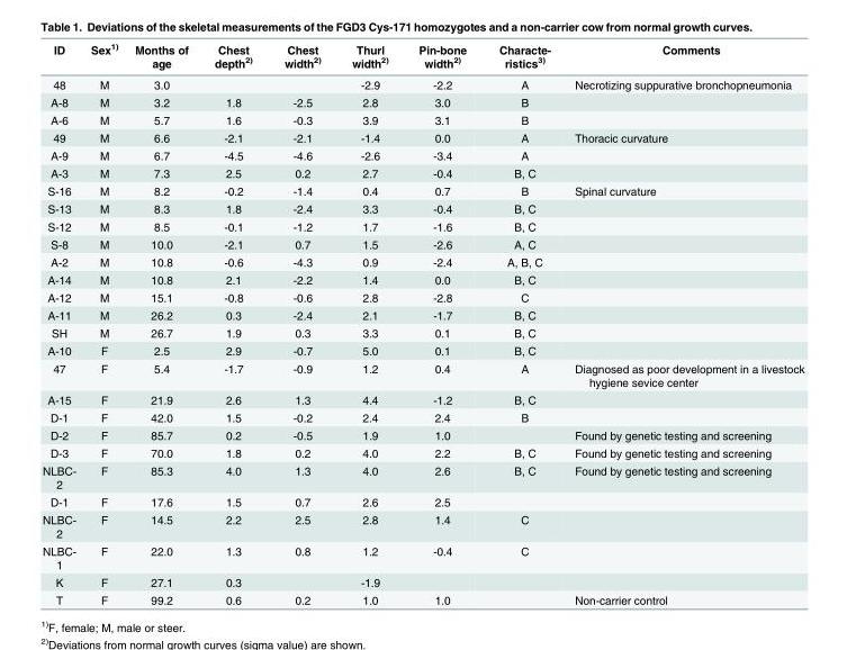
<table><thead><tr><td>ID</td><td>Sex<sup>1)</sup></td><td>Months of age</td><td>Chest depth<sup>2)</sup></td><td>Chest width<sup>2)</sup></td><td>Thurl width<sup>2)</sup></td><td>Pin-bone width<sup>2)</sup></td><td>Characte- ristics<sup>3)</sup></td><td>Comments</td></tr></thead><tbody><tr><td>48</td><td>M</td><td>3.0</td><td></td><td></td><td>-2.9</td><td>-2.2</td><td>A</td><td>Necrotizing suppurative bronchopneumonia</td></tr><tr><td>A-8</td><td>M</td><td>3.2</td><td>1.8</td><td>-2.5</td><td>2.8</td><td>3.0</td><td>B</td><td></td></tr><tr><td>A-6</td><td>M</td><td>5.7</td><td>1.6</td><td>-0.3</td><td>3.9</td><td>3.1</td><td>B</td><td></td></tr><tr><td>49</td><td>M</td><td>6.6</td><td>-2.1</td><td>-2.1</td><td>-1.4</td><td>0.0</td><td>A</td><td>Thoracic curvature</td></tr><tr><td>A-9</td><td>M</td><td>6.7</td><td>-4.5</td><td>-4.6</td><td>-2.6</td><td>-3.4</td><td>A</td><td></td></tr><tr><td>A-3</td><td>M</td><td>7.3</td><td>2.5</td><td>0.2</td><td>2.7</td><td>-0.4</td><td>B, C</td><td></td></tr><tr><td>S-16</td><td>M</td><td>8.2</td><td>-0.2</td><td>-1.4</td><td>0.4</td><td>0.7</td><td>B</td><td>Spinal curvature</td></tr><tr><td>S-13</td><td>M</td><td>8.3</td><td>1.8</td><td>-2.4</td><td>3.3</td><td>-0.4</td><td>B, C</td><td></td></tr><tr><td>S-12</td><td>M</td><td>8.5</td><td>-0.1</td><td>-1.2</td><td>1.7</td><td>-1.6</td><td>B, C</td><td></td></tr><tr><td>S-8</td><td>M</td><td>10.0</td><td>-2.1</td><td>0.7</td><td>1.5</td><td>-2.6</td><td>A, C</td><td></td></tr><tr><td>A-2</td><td>M</td><td>10.8</td><td>-0.6</td><td>-4.3</td><td>0.9</td><td>-2.4</td><td>A, B, C</td><td></td></tr><tr><td>A-14</td><td>M</td><td>10.8</td><td>2.1</td><td>-2.2</td><td>1.4</td><td>0.0</td><td>B, C</td><td></td></tr><tr><td>A-12</td><td>M</td><td>15.1</td><td>-0.8</td><td>-0.6</td><td>2.8</td><td>-2.8</td><td>C</td><td></td></tr><tr><td>A-11</td><td>M</td><td>26.2</td><td>0.3</td><td>-2.4</td><td>2.1</td><td>-1.7</td><td>B, C</td><td></td></tr><tr><td>SH</td><td>M</td><td>26.7</td><td>1.9</td><td>0.3</td><td>3.3</td><td>0.1</td><td>B, C</td><td></td></tr><tr><td>A-10</td><td>F</td><td>2.5</td><td>2.9</td><td>-0.7</td><td>5.0</td><td>0.1</td><td>B, C</td><td></td></tr><tr><td>47</td><td>F</td><td>5.4</td><td>-1.7</td><td>-0.9</td><td>1.2</td><td>0.4</td><td>A</td><td>Diagnosed as poor development in a livestock hygiene sevice center</td></tr><tr><td>A-15</td><td>F</td><td>21.9</td><td>2.6</td><td>1.3</td><td>4.4</td><td>-1.2</td><td>B, C</td><td></td></tr><tr><td>D-1</td><td>F</td><td>42.0</td><td>1.5</td><td>-0.2</td><td>2.4</td><td>2.4</td><td>B</td><td></td></tr><tr><td>D-2</td><td>F</td><td>85.7</td><td>0.2</td><td>-0.5</td><td>1.9</td><td>1.0</td><td></td><td>Found by genetic testing and screening</td></tr><tr><td>D-3</td><td>F</td><td>70.0</td><td>1.8</td><td>0.2</td><td>4.0</td><td>2.2</td><td>B, C</td><td>Found by genetic testing and screening</td></tr><tr><td>NLBC- 2</td><td>F</td><td>85.3</td><td>4.0</td><td>1.3</td><td>4.0</td><td>2.6</td><td>B, C</td><td>Found by genetic testing and screening</td></tr><tr><td>D-1</td><td>F</td><td>17.6</td><td>1.5</td><td>0.7</td><td>2.6</td><td>2.5</td><td></td><td></td></tr><tr><td>NLBC- 2</td><td>F</td><td>14.5</td><td>2.2</td><td>2.5</td><td>2.8</td><td>1.4</td><td>C</td><td></td></tr><tr><td>NLBC- 1</td><td>F</td><td>22.0</td><td>1.3</td><td>0.8</td><td>1.2</td><td>-0.4</td><td>C</td><td></td></tr><tr><td>K</td><td>F</td><td>27.1</td><td>0.3</td><td></td><td>-1.9</td><td></td><td></td><td></td></tr><tr><td>T</td><td>F</td><td>99.2</td><td>0.6</td><td>0.2</td><td>1.0</td><td>1.0</td><td></td><td>Non-carrier control</td></tr></tbody></table>